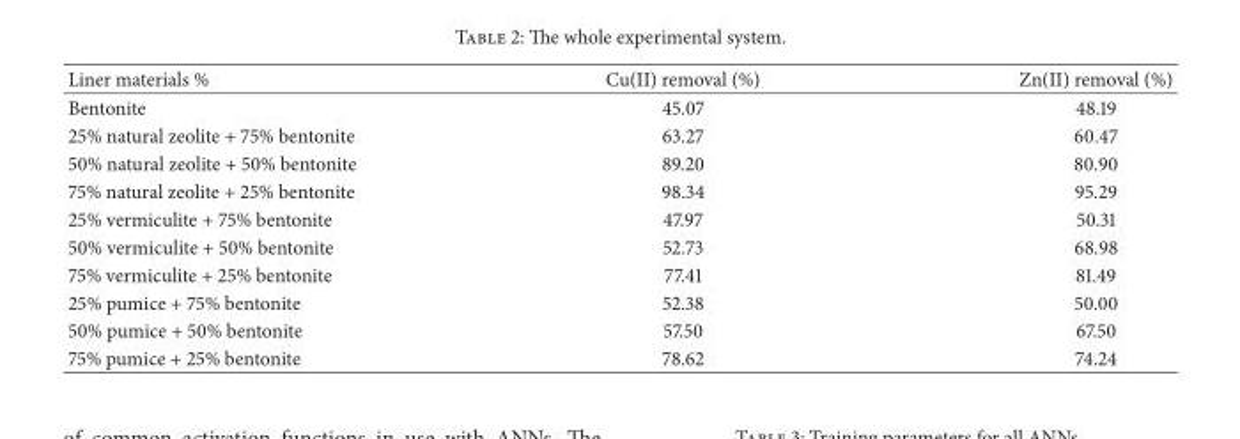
<table><thead><tr><td>Liner materials %</td><td>Cu(II) removal (%)</td><td>Zn(II) removal (%)</td></tr></thead><tbody><tr><td>Bentonite</td><td>45.07</td><td>48.19</td></tr><tr><td>25% natural zeolite + 75% bentonite</td><td>63.27</td><td>60.47</td></tr><tr><td>50% natural zeolite + 50% bentonite</td><td>89.20</td><td>80.90</td></tr><tr><td>75% natural zeolite + 25% bentonite</td><td>98.34</td><td>95.29</td></tr><tr><td>25% vermiculite + 75% bentonite</td><td>47.97</td><td>50.31</td></tr><tr><td>50% vermiculite + 50% bentonite</td><td>52.73</td><td>68.98</td></tr><tr><td>75% vermiculite + 25% bentonite</td><td>77.41</td><td>81.49</td></tr><tr><td>25% pumice + 75% bentonite</td><td>52.38</td><td>50.00</td></tr><tr><td>50% pumice + 50% bentonite</td><td>57.50</td><td>67.50</td></tr><tr><td>75% pumice + 25% bentonite</td><td>78.62</td><td>74.24</td></tr></tbody></table>